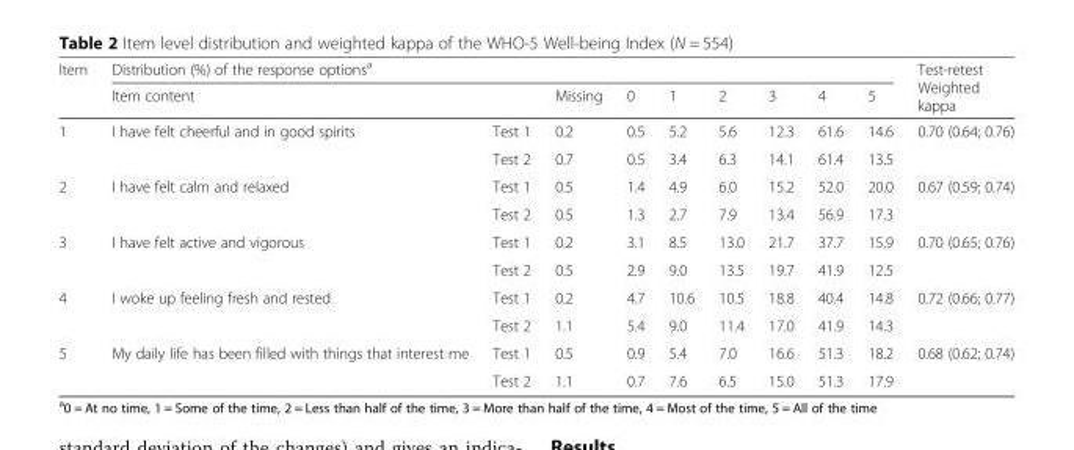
<table><thead><tr><td rowspan="2">Item</td><td colspan="9">Distribution (%) of the response options<sup>a</sup></td><td rowspan="2">Test-retest Weighted kappa</td></tr><tr><td>Item content</td><td></td><td>Missing</td><td>0</td><td>1</td><td>2</td><td>3</td><td>4</td><td>5</td></tr></thead><tbody><tr><td rowspan="2">1</td><td rowspan="2">I have felt cheerful and in good spirits</td><td>Test 1</td><td>0.2</td><td>0.5</td><td>5.2</td><td>5.6</td><td>12.3</td><td>61.6</td><td>14.6</td><td rowspan="2">0.70 (0.64; 0.76)</td></tr><tr><td>Test 2</td><td>0.7</td><td>0.5</td><td>3.4</td><td>6.3</td><td>14.1</td><td>61.4</td><td>13.5</td></tr><tr><td rowspan="2">2</td><td rowspan="2">I have felt calm and relaxed</td><td>Test 1</td><td>0.5</td><td>1.4</td><td>4.9</td><td>6.0</td><td>15.2</td><td>52.0</td><td>20.0</td><td rowspan="2">0.67 (0.59; 0.74)</td></tr><tr><td>Test 2</td><td>0.5</td><td>1.3</td><td>2.7</td><td>7.9</td><td>13.4</td><td>56.9</td><td>17.3</td></tr><tr><td rowspan="2">3</td><td rowspan="2">I have felt active and vigorous</td><td>Test 1</td><td>0.2</td><td>3.1</td><td>8.5</td><td>13.0</td><td>21.7</td><td>37.7</td><td>15.9</td><td rowspan="2">0.70 (0.65; 0.76)</td></tr><tr><td>Test 2</td><td>0.5</td><td>2.9</td><td>9.0</td><td>13.5</td><td>19.7</td><td>41.9</td><td>12.5</td></tr><tr><td rowspan="2">4</td><td rowspan="2">I woke up feeling fresh and rested</td><td>Test 1</td><td>0.2</td><td>4.7</td><td>10.6</td><td>10.5</td><td>18.8</td><td>40.4</td><td>14.8</td><td rowspan="2">0.72 (0.66; 0.77)</td></tr><tr><td>Test 2</td><td>1.1</td><td>5.4</td><td>9.0</td><td>11.4</td><td>17.0</td><td>41.9</td><td>14.3</td></tr><tr><td rowspan="2">5</td><td rowspan="2">My daily life has been filled with things that interest me</td><td>Test 1</td><td>0.5</td><td>0.9</td><td>5.4</td><td>7.0</td><td>16.6</td><td>51.3</td><td>18.2</td><td rowspan="2">0.68 (0.62; 0.74)</td></tr><tr><td>Test 2</td><td>1.1</td><td>0.7</td><td>7.6</td><td>6.5</td><td>15.0</td><td>51.3</td><td>17.9</td></tr></tbody></table>